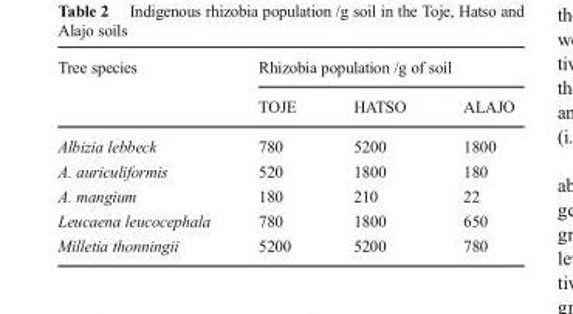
<table><thead><tr><td rowspan="2">Tree species</td><td colspan="3">Rhizobia population /g of soil</td></tr><tr><td>TOJE</td><td>HATSO</td><td>ALAJO</td></tr></thead><tbody><tr><td>Albizia lebbeck</td><td>780</td><td>5200</td><td>1800</td></tr><tr><td>A. auriculiformis</td><td>520</td><td>1800</td><td>180</td></tr><tr><td>A. mangium</td><td>180</td><td>210</td><td>22</td></tr><tr><td>Leucaena leucocephala</td><td>780</td><td>1800</td><td>650</td></tr><tr><td>Milletia thonningii</td><td>5200</td><td>5200</td><td>780</td></tr></tbody></table>